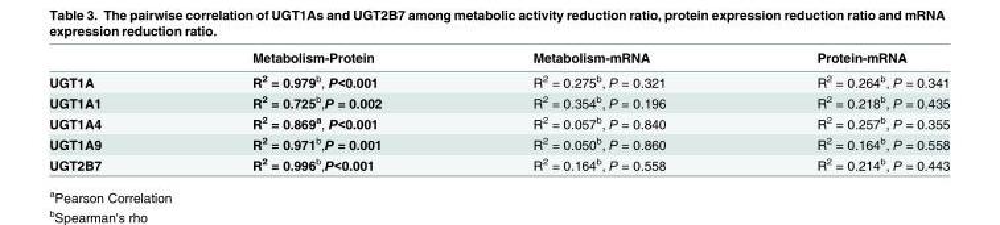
<table><thead><tr><td></td><td>Metabolism-Protein</td><td>Metabolism-mRNA</td><td>Protein-mRNA</td></tr></thead><tbody><tr><td>UGT1A</td><td>R<sup>2</sup> = 0.979<sup>b</sup>, P&lt;0.001</td><td>R<sup>2</sup> = 0.275<sup>b</sup>, P = 0.321</td><td>R<sup>2</sup> = 0.264<sup>b</sup>, P = 0.341</td></tr><tr><td>UGT1A1</td><td>R<sup>2</sup> = 0.725<sup>b</sup>,P = 0.002</td><td>R<sup>2</sup> = 0.354<sup>b</sup>, P = 0.196</td><td>R<sup>2</sup> = 0.218<sup>b</sup>, P = 0.435</td></tr><tr><td>UGT1A4</td><td>R<sup>2</sup> = 0.869<sup>a</sup>, P&lt;0.001</td><td>R<sup>2</sup> = 0.057<sup>b</sup>, P = 0.840</td><td>R<sup>2</sup> = 0.257<sup>b</sup>, P = 0.355</td></tr><tr><td>UGT1A9</td><td>R<sup>2</sup> = 0.971<sup>b</sup>,P = 0.001</td><td>R<sup>2</sup> = 0.050<sup>b</sup>, P = 0.860</td><td>R<sup>2</sup> = 0.164<sup>b</sup>, P = 0.558</td></tr><tr><td>UGT2B7</td><td>R<sup>2</sup> = 0.996<sup>b</sup>,P&lt;0.001</td><td>R<sup>2</sup> = 0.164<sup>b</sup>, P = 0.558</td><td>R<sup>2</sup> = 0.214<sup>b</sup>, P = 0.443</td></tr></tbody></table>